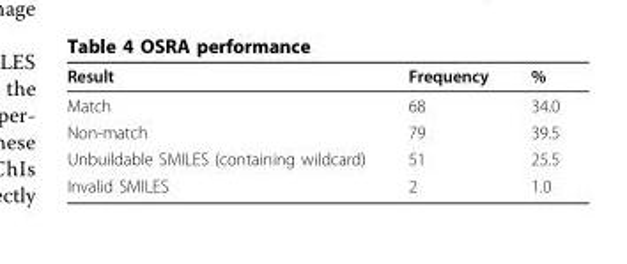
<table><thead><tr><td>Result</td><td>Frequency</td><td>%</td></tr></thead><tbody><tr><td>Match</td><td>68</td><td>34.0</td></tr><tr><td>Non-match</td><td>79</td><td>39.5</td></tr><tr><td>Unbuildable SMILES (containing wildcard)</td><td>51</td><td>25.5</td></tr><tr><td>Invalid SMILES</td><td>2</td><td>1.0</td></tr></tbody></table>